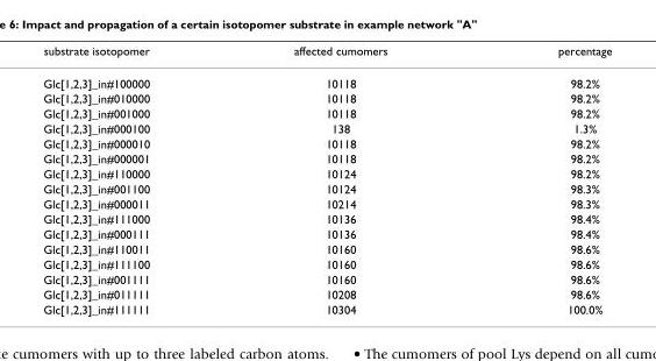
<table><thead><tr><td>substrate isotopomer</td><td>affected cumomers</td><td>percentage</td></tr></thead><tbody><tr><td>Glc[1,2,3]_in#100000</td><td>10118</td><td>98.2%</td></tr><tr><td>Glc[1,2,3]_in#010000</td><td>10118</td><td>98.2%</td></tr><tr><td>Glc[1,2,3]_in#001000</td><td>10118</td><td>98.2%</td></tr><tr><td>Glc[1,2,3]_in#000100</td><td>138</td><td>1.3%</td></tr><tr><td>Glc[1,2,3]_in#000010</td><td>10118</td><td>98.2%</td></tr><tr><td>Glc[1,2,3]_in#000001</td><td>10118</td><td>98.2%</td></tr><tr><td>Glc[1,2,3]_in#110000</td><td>10124</td><td>98.2%</td></tr><tr><td>Glc[1,2,3]_in#001100</td><td>10124</td><td>98.3%</td></tr><tr><td>Glc[1,2,3]_in#000011</td><td>10214</td><td>98.3%</td></tr><tr><td>Glc[1,2,3]_in#111000</td><td>10136</td><td>98.4%</td></tr><tr><td>Glc[1,2,3]_in#000111</td><td>10136</td><td>98.4%</td></tr><tr><td>Glc[1,2,3]_in#110011</td><td>10160</td><td>98.6%</td></tr><tr><td>Glc[1,2,3]_in#111100</td><td>10160</td><td>98.6%</td></tr><tr><td>Glc[1,2,3]_in#001111</td><td>10160</td><td>98.6%</td></tr><tr><td>Glc[1,2,3]_in#011111</td><td>10208</td><td>98.6%</td></tr><tr><td>Glc[1,2,3]_in#111111</td><td>10304</td><td>100.0%</td></tr></tbody></table>